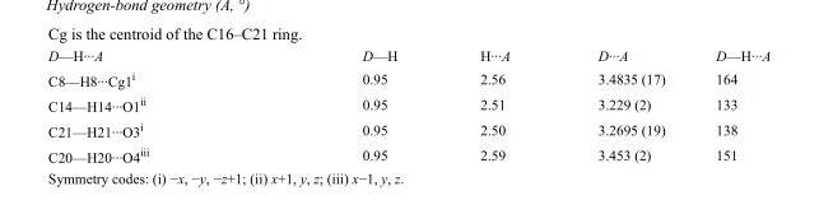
<table><tbody><tr><td>D—H···A</td><td>D—H</td><td>H···A</td><td>D···A</td><td>D—H···A</td></tr><tr><td>C8—H8···Cg1<sup>i</sup></td><td>0.95</td><td>2.56</td><td>3.4835 (17)</td><td>164</td></tr><tr><td>C14—H14···O1<sup>ii</sup></td><td>0.95</td><td>2.51</td><td>3.229 (2)</td><td>133</td></tr><tr><td>C21—H21···O3<sup>i</sup></td><td>0.95</td><td>2.50</td><td>3.2695 (19)</td><td>138</td></tr><tr><td>C20—H20···O4<sup>iii</sup></td><td>0.95</td><td>2.59</td><td>3.453 (2)</td><td>151</td></tr></tbody></table>